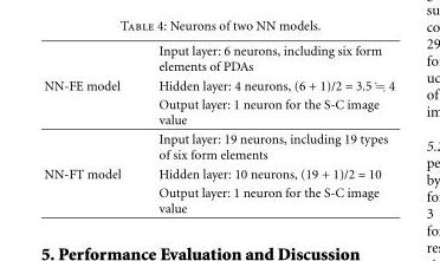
<table><thead><tr><td></td><td>Input layer: 6 neurons, including six form elements of PDAs</td></tr></thead><tbody><tr><td rowspan="3">NN-FE model</td><td>Hidden layer: 4 neurons, (6 + 1)/2 = 3.5 ≒ 4</td></tr><tr><td>Output layer: 1 neuron for the S-C image value</td></tr><tr><td>Input layer: 19 neurons, including 19 types of six form elements</td></tr><tr><td rowspan="2">NN-FT model</td><td>Hidden layer: 10 neurons, (19 + 1)/2 = 10</td></tr><tr><td>Output layer: 1 neuron for the S-C image value</td></tr></tbody></table>